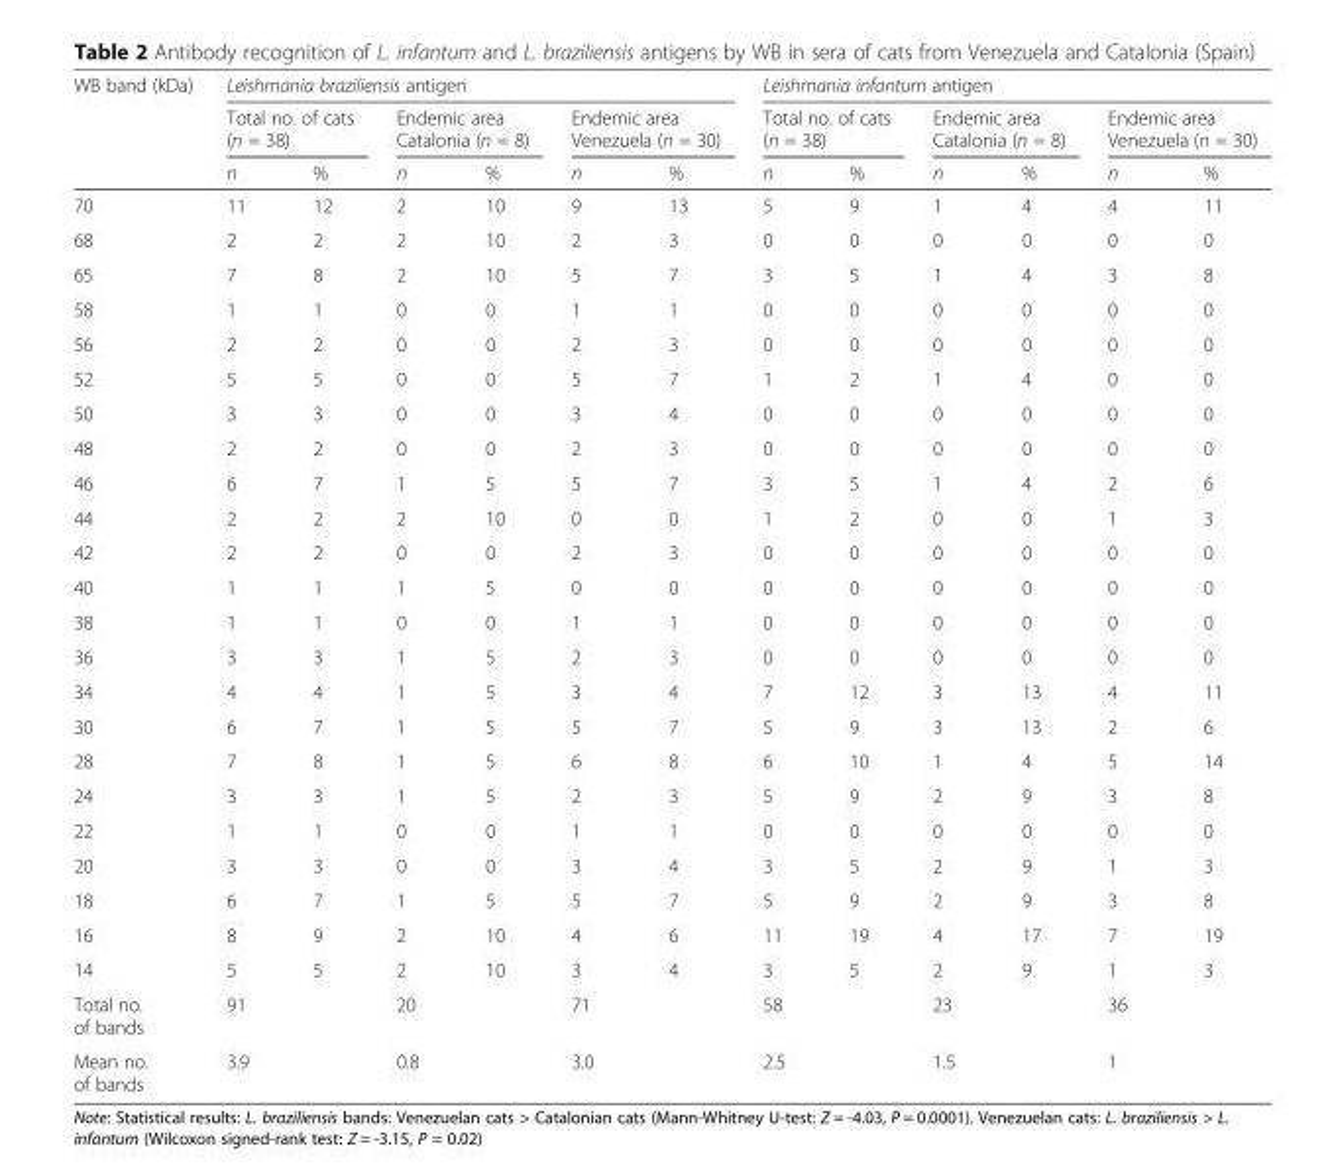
<table><thead><tr><td rowspan="3">WB band (kDa)</td><td colspan="6">Leishmania braziliensis antigen</td><td colspan="6">Leishmania infantum antigen</td></tr><tr><td colspan="2">Total no. of cats (n = 38)</td><td colspan="2">Endemic area Catalonia (n = 8)</td><td colspan="2">Endemic area Venezuela (n = 30)</td><td colspan="2">Total no. of cats (n = 38)</td><td colspan="2">Endemic area Catalonia (n = 8)</td><td colspan="2">Endemic area Venezuela (n = 30)</td></tr><tr><td>n</td><td>%</td><td>n</td><td>%</td><td>n</td><td>%</td><td>n</td><td>%</td><td>n</td><td>%</td><td>n</td><td>%</td></tr></thead><tbody><tr><td>70</td><td>11</td><td>12</td><td>2</td><td>10</td><td>9</td><td>13</td><td>5</td><td>9</td><td>1</td><td>4</td><td>4</td><td>11</td></tr><tr><td>68</td><td>2</td><td>2</td><td>2</td><td>10</td><td>2</td><td>3</td><td>0</td><td>0</td><td>0</td><td>0</td><td>0</td><td>0</td></tr><tr><td>65</td><td>7</td><td>8</td><td>2</td><td>10</td><td>5</td><td>7</td><td>3</td><td>5</td><td>1</td><td>4</td><td>3</td><td>8</td></tr><tr><td>58</td><td>1</td><td>1</td><td>0</td><td>0</td><td>1</td><td>1</td><td>0</td><td>0</td><td>0</td><td>0</td><td>0</td><td>0</td></tr><tr><td>56</td><td>2</td><td>2</td><td>0</td><td>0</td><td>2</td><td>3</td><td>0</td><td>0</td><td>0</td><td>0</td><td>0</td><td>0</td></tr><tr><td>52</td><td>5</td><td>5</td><td>0</td><td>0</td><td>5</td><td>7</td><td>1</td><td>2</td><td>1</td><td>4</td><td>0</td><td>0</td></tr><tr><td>50</td><td>3</td><td>3</td><td>0</td><td>0</td><td>3</td><td>4</td><td>0</td><td>0</td><td>0</td><td>0</td><td>0</td><td>0</td></tr><tr><td>48</td><td>2</td><td>2</td><td>0</td><td>0</td><td>2</td><td>3</td><td>0</td><td>0</td><td>0</td><td>0</td><td>0</td><td>0</td></tr><tr><td>46</td><td>6</td><td>7</td><td>1</td><td>5</td><td>5</td><td>7</td><td>3</td><td>5</td><td>1</td><td>4</td><td>2</td><td>6</td></tr><tr><td>44</td><td>2</td><td>2</td><td>2</td><td>10</td><td>0</td><td>0</td><td>1</td><td>2</td><td>0</td><td>0</td><td>1</td><td>3</td></tr><tr><td>42</td><td>2</td><td>2</td><td>0</td><td>0</td><td>2</td><td>3</td><td>0</td><td>0</td><td>0</td><td>0</td><td>0</td><td>0</td></tr><tr><td>40</td><td>1</td><td>1</td><td>1</td><td>5</td><td>0</td><td>0</td><td>0</td><td>0</td><td>0</td><td>0</td><td>0</td><td>0</td></tr><tr><td>38</td><td>1</td><td>1</td><td>0</td><td>0</td><td>1</td><td>1</td><td>0</td><td>0</td><td>0</td><td>0</td><td>0</td><td>0</td></tr><tr><td>36</td><td>3</td><td>3</td><td>1</td><td>5</td><td>2</td><td>3</td><td>0</td><td>0</td><td>0</td><td>0</td><td>0</td><td>0</td></tr><tr><td>34</td><td>4</td><td>4</td><td>1</td><td>5</td><td>3</td><td>4</td><td>7</td><td>12</td><td>3</td><td>13</td><td>4</td><td>11</td></tr><tr><td>30</td><td>6</td><td>7</td><td>1</td><td>5</td><td>5</td><td>7</td><td>5</td><td>9</td><td>3</td><td>13</td><td>2</td><td>6</td></tr><tr><td>28</td><td>7</td><td>8</td><td>1</td><td>5</td><td>6</td><td>8</td><td>6</td><td>10</td><td>1</td><td>4</td><td>5</td><td>14</td></tr><tr><td>24</td><td>3</td><td>3</td><td>1</td><td>5</td><td>2</td><td>3</td><td>5</td><td>9</td><td>2</td><td>9</td><td>3</td><td>8</td></tr><tr><td>22</td><td>1</td><td>1</td><td>0</td><td>0</td><td>1</td><td>1</td><td>0</td><td>0</td><td>0</td><td>0</td><td>0</td><td>0</td></tr><tr><td>20</td><td>3</td><td>3</td><td>0</td><td>0</td><td>3</td><td>4</td><td>3</td><td>5</td><td>2</td><td>9</td><td>1</td><td>3</td></tr><tr><td>18</td><td>6</td><td>7</td><td>1</td><td>5</td><td>5</td><td>7</td><td>5</td><td>9</td><td>2</td><td>9</td><td>3</td><td>8</td></tr><tr><td>16</td><td>8</td><td>9</td><td>2</td><td>10</td><td>4</td><td>6</td><td>11</td><td>19</td><td>4</td><td>17</td><td>7</td><td>19</td></tr><tr><td>14</td><td>5</td><td>5</td><td>2</td><td>10</td><td>3</td><td>4</td><td>3</td><td>5</td><td>2</td><td>9</td><td>1</td><td>3</td></tr><tr><td>Total no. of bands</td><td>91</td><td></td><td>20</td><td></td><td>71</td><td></td><td>58</td><td></td><td>23</td><td></td><td>36</td><td></td></tr><tr><td>Mean no. of bands</td><td>3.9</td><td></td><td>0.8</td><td></td><td>3.0</td><td></td><td>2.5</td><td></td><td>1.5</td><td></td><td>1</td><td></td></tr></tbody></table>